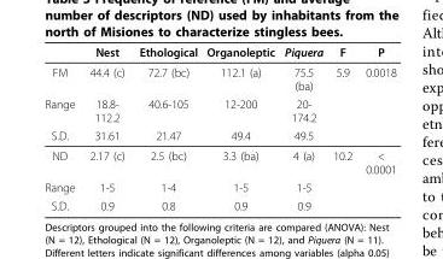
<table><thead><tr><td></td><td>Nest</td><td>Ethological</td><td>Organoleptic</td><td>Piquera</td><td>F</td><td>P</td></tr></thead><tbody><tr><td>FM</td><td>44.4 (c)</td><td>72.7 (bc)</td><td>112.1 (a)</td><td>75.5 (ba)</td><td>5.9</td><td>0.0018</td></tr><tr><td>Range</td><td>18.8- 112.2</td><td>40.6-105</td><td>12-200</td><td>20- 174.2</td><td></td><td></td></tr><tr><td>S.D.</td><td>31.61</td><td>21.47</td><td>49.4</td><td>49.5</td><td></td><td></td></tr><tr><td>ND</td><td>2.17 (c)</td><td>2.5 (bc)</td><td>3.3 (ba)</td><td>4 (a)</td><td>10.2</td><td>&lt; 0.0001</td></tr><tr><td>Range</td><td>1-5</td><td>1-4</td><td>1-5</td><td>1-5</td><td></td><td></td></tr><tr><td>S.D.</td><td>0.9</td><td>0.8</td><td>0.9</td><td>0.9</td><td></td><td></td></tr></tbody></table>